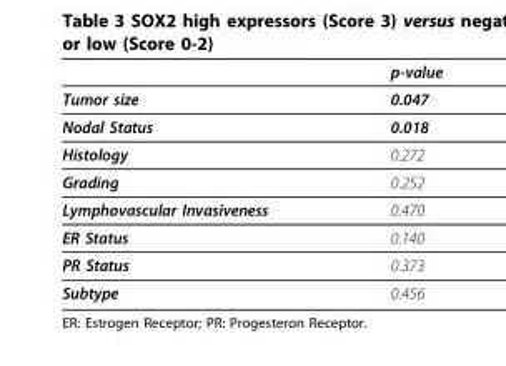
<table><thead><tr><td></td><td>p-value</td></tr></thead><tbody><tr><td>Tumor size</td><td>0.047</td></tr><tr><td>Nodal Status</td><td>0.018</td></tr><tr><td>Histology</td><td>0.272</td></tr><tr><td>Grading</td><td>0.252</td></tr><tr><td>Lymphovascular Invasiveness</td><td>0.470</td></tr><tr><td>ER Status</td><td>0.140</td></tr><tr><td>PR Status</td><td>0.373</td></tr><tr><td>Subtype</td><td>0.456</td></tr></tbody></table>